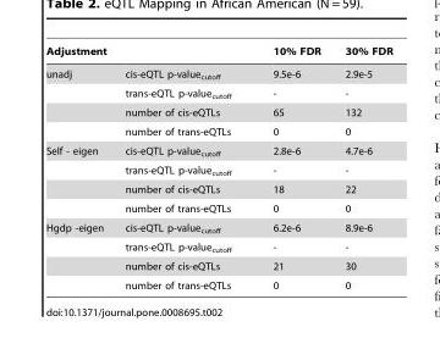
<table><thead><tr><td>Adjustment</td><td></td><td>10% FDR</td><td>30% FDR</td></tr></thead><tbody><tr><td rowspan="4">unadj</td><td>cis-eQTL p-value<sub>cutoff</sub></td><td>9.5e-6</td><td>2.9e-5</td></tr><tr><td>trans-eQTL p-value<sub>cutoff</sub></td><td>-</td><td>-</td></tr><tr><td>number of cis-eQTLs</td><td>65</td><td>132</td></tr><tr><td>number of trans-eQTLs</td><td>0</td><td>0</td></tr><tr><td rowspan="4">Self - eigen</td><td>cis-eQTL p-value<sub>cutoff</sub></td><td>2.8e-6</td><td>4.7e-6</td></tr><tr><td>trans-eQTL p-value<sub>cutoff</sub></td><td>-</td><td>-</td></tr><tr><td>number of cis-eQTLs</td><td>18</td><td>22</td></tr><tr><td>number of trans-eQTLs</td><td>0</td><td>0</td></tr><tr><td rowspan="4">Hgdp -eigen</td><td>cis-eQTL p-value<sub>cutoff</sub></td><td>6.2e-6</td><td>8.9e-6</td></tr><tr><td>trans-eQTL p-value<sub>cutoff</sub></td><td>-</td><td>-</td></tr><tr><td>number of cis-eQTLs</td><td>21</td><td>30</td></tr><tr><td>number of trans-eQTLs</td><td>0</td><td>0</td></tr></tbody></table>